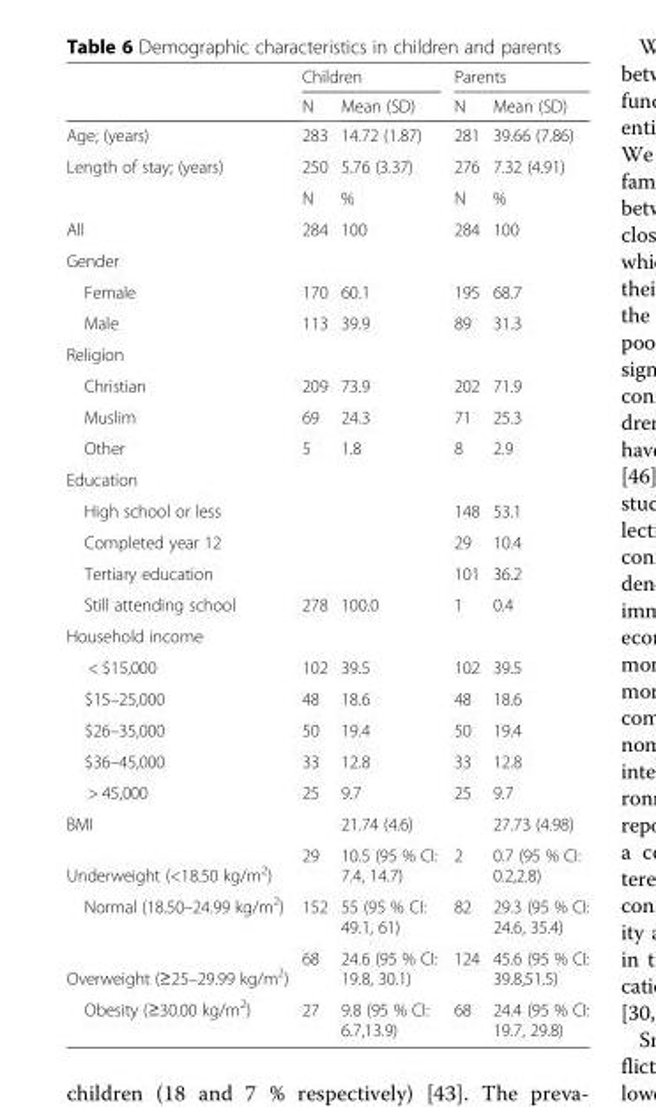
<table><thead><tr><td rowspan="2"></td><td colspan="2">Children</td><td colspan="2">Parents</td></tr><tr><td>N</td><td>Mean (SD)</td><td>N</td><td>Mean (SD)</td></tr></thead><tbody><tr><td>Age; (years)</td><td>283</td><td>14.72 (1.87)</td><td>281</td><td>39.66 (7.86)</td></tr><tr><td rowspan="2">Length of stay; (years)</td><td>250</td><td>5.76 (3.37)</td><td>276</td><td>7.32 (4.91)</td></tr><tr><td>N</td><td>%</td><td>N</td><td>%</td></tr><tr><td>All</td><td>284</td><td>100</td><td>284</td><td>100</td></tr><tr><td colspan="5">Gender</td></tr><tr><td>Female</td><td>170</td><td>60.1</td><td>195</td><td>68.7</td></tr><tr><td>Male</td><td>113</td><td>39.9</td><td>89</td><td>31.3</td></tr><tr><td colspan="5">Religion</td></tr><tr><td>Christian</td><td>209</td><td>73.9</td><td>202</td><td>71.9</td></tr><tr><td>Muslim</td><td>69</td><td>24.3</td><td>71</td><td>25.3</td></tr><tr><td>Other</td><td>5</td><td>1.8</td><td>8</td><td>2.9</td></tr><tr><td colspan="5">Education</td></tr><tr><td>High school or less</td><td></td><td></td><td>148</td><td>53.1</td></tr><tr><td>Completed year 12</td><td></td><td></td><td>29</td><td>10.4</td></tr><tr><td>Tertiary education</td><td></td><td></td><td>101</td><td>36.2</td></tr><tr><td>Still attending school</td><td>278</td><td>100.0</td><td>1</td><td>0.4</td></tr><tr><td colspan="5">Household income</td></tr><tr><td>&lt; $15,000</td><td>102</td><td>39.5</td><td>102</td><td>39.5</td></tr><tr><td>$15–25,000</td><td>48</td><td>18.6</td><td>48</td><td>18.6</td></tr><tr><td>$26–35,000</td><td>50</td><td>19.4</td><td>50</td><td>19.4</td></tr><tr><td>$36–45,000</td><td>33</td><td>12.8</td><td>33</td><td>12.8</td></tr><tr><td>&gt; 45,000</td><td>25</td><td>9.7</td><td>25</td><td>9.7</td></tr><tr><td>BMI</td><td></td><td>21.74 (4.6)</td><td></td><td>27.73 (4.98)</td></tr><tr><td>Underweight (&lt;18.50 kg/m<sup>2</sup>)</td><td>29</td><td>10.5 (95 % CI: 7.4, 14.7)</td><td>2</td><td>0.7 (95 % CI: 0.2,2.8)</td></tr><tr><td>Normal (18.50–24.99 kg/m<sup>2</sup>)</td><td>152</td><td>55 (95 % CI: 49.1, 61)</td><td>82</td><td>29.3 (95 % CI: 24.6, 35.4)</td></tr><tr><td>Overweight (≥25–29.99 kg/m<sup>2</sup>)</td><td>68</td><td>24.6 (95 % CI: 19.8, 30.1)</td><td>124</td><td>45.6 (95 % CI: 39.8,51.5)</td></tr><tr><td>Obesity (≥30.00 kg/m<sup>2</sup>)</td><td>27</td><td>9.8 (95 % CI: 6.7,13.9)</td><td>68</td><td>24.4 (95 % CI: 19.7, 29.8)</td></tr></tbody></table>